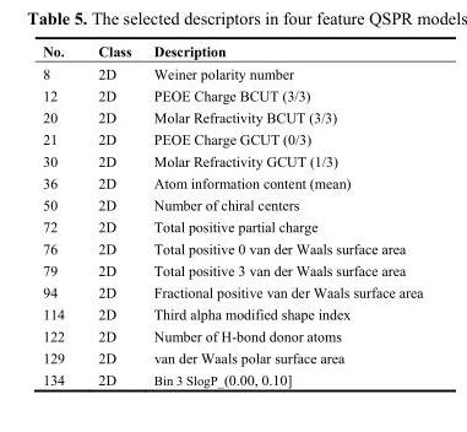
<table><thead><tr><td>No.</td><td>Class</td><td>Description</td></tr></thead><tbody><tr><td>8</td><td>2D</td><td>Weiner polarity number</td></tr><tr><td>12</td><td>2D</td><td>PEOE Charge BCUT (3/3)</td></tr><tr><td>20</td><td>2D</td><td>Molar Refractivity BCUT (3/3)</td></tr><tr><td>21</td><td>2D</td><td>PEOE Charge GCUT (0/3)</td></tr><tr><td>30</td><td>2D</td><td>Molar Refractivity GCUT (1/3)</td></tr><tr><td>36</td><td>2D</td><td>Atom information content (mean)</td></tr><tr><td>50</td><td>2D</td><td>Number of chiral centers</td></tr><tr><td>72</td><td>2D</td><td>Total positive partial charge</td></tr><tr><td>76</td><td>2D</td><td>Total positive 0 van der Waals surface area</td></tr><tr><td>79</td><td>2D</td><td>Total positive 3 van der Waals surface area</td></tr><tr><td>94</td><td>2D</td><td>Fractional positive van der Waals surface area</td></tr><tr><td>114</td><td>2D</td><td>Third alpha modified shape index</td></tr><tr><td>122</td><td>2D</td><td>Number of H-bond donor atoms</td></tr><tr><td>129</td><td>2D</td><td>van der Waals polar surface area</td></tr><tr><td>134</td><td>2D</td><td>Bin 3 SlogP_(0.00, 0.10]</td></tr></tbody></table>